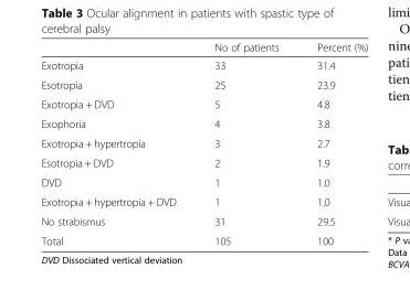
<table><thead><tr><td></td><td>No of patients</td><td>Percent (%)</td></tr></thead><tbody><tr><td>Exotropia</td><td>33</td><td>31.4</td></tr><tr><td>Esotropia</td><td>25</td><td>23.9</td></tr><tr><td>Exotropia + DVD</td><td>5</td><td>4.8</td></tr><tr><td>Exophoria</td><td>4</td><td>3.8</td></tr><tr><td>Exotropia + hypertropia</td><td>3</td><td>2.7</td></tr><tr><td>Esotropia + DVD</td><td>2</td><td>1.9</td></tr><tr><td>DVD</td><td>1</td><td>1.0</td></tr><tr><td>Exotropia + hypertropia + DVD</td><td>1</td><td>1.0</td></tr><tr><td>No strabismus</td><td>31</td><td>29.5</td></tr><tr><td>Total</td><td>105</td><td>100</td></tr></tbody></table>